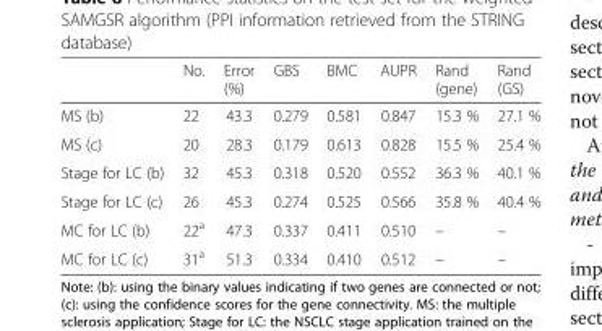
<table><thead><tr><td></td><td>No.</td><td>Error (%)</td><td>GBS</td><td>BMC</td><td>AUPR</td><td>Rand (gene)</td><td>Rand (GS)</td></tr></thead><tbody><tr><td>MS (b)</td><td>22</td><td>43.3</td><td>0.279</td><td>0.581</td><td>0.847</td><td>15.3 %</td><td>27.1 %</td></tr><tr><td>MS (c)</td><td>20</td><td>28.3</td><td>0.179</td><td>0.613</td><td>0.828</td><td>15.5 %</td><td>25.4 %</td></tr><tr><td>Stage for LC (b)</td><td>32</td><td>45.3</td><td>0.318</td><td>0.520</td><td>0.552</td><td>36.3 %</td><td>40.1 %</td></tr><tr><td>Stage for LC (c)</td><td>26</td><td>45.3</td><td>0.274</td><td>0.525</td><td>0.566</td><td>35.8 %</td><td>40.4 %</td></tr><tr><td>MC for LC (b)</td><td>22<sup>a</sup></td><td>47.3</td><td>0.337</td><td>0.411</td><td>0.510</td><td>–</td><td>–</td></tr><tr><td>MC for LC (c)</td><td>31<sup>a</sup></td><td>51.3</td><td>0.334</td><td>0.410</td><td>0.512</td><td>–</td><td>–</td></tr></tbody></table>